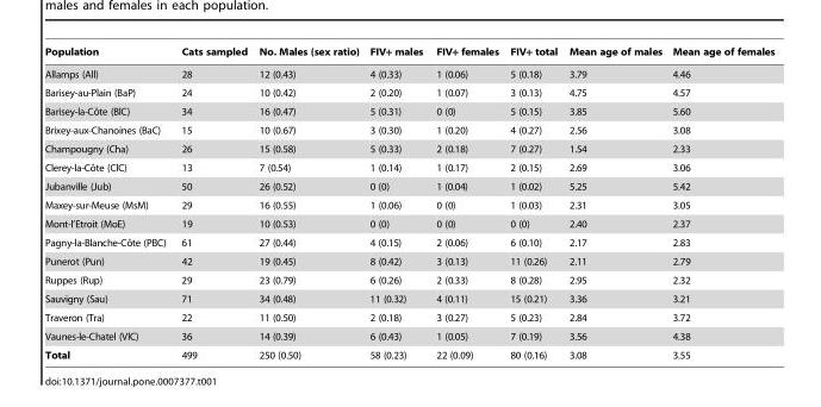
<table><thead><tr><td>Population</td><td>Cats sampled</td><td>No. Males (sex ratio)</td><td>FIV+ males</td><td>FIV+ females</td><td>FIV+ total</td><td>Mean age of males</td><td>Mean age of females</td></tr></thead><tbody><tr><td>Allamps (All)</td><td>28</td><td>12 (0.43)</td><td>4 (0.33)</td><td>1 (0.06)</td><td>5 (0.18)</td><td>3.79</td><td>4.46</td></tr><tr><td>Barisey-au-Plain (BaP)</td><td>24</td><td>10 (0.42)</td><td>2 (0.20)</td><td>1 (0.07)</td><td>3 (0.13)</td><td>4.75</td><td>4.57</td></tr><tr><td>Barisey-la-Coˆte (BlC)</td><td>34</td><td>16 (0.47)</td><td>5 (0.31)</td><td>0 (0)</td><td>5 (0.15)</td><td>3.85</td><td>5.60</td></tr><tr><td>Brixey-aux-Chanoines (BaC)</td><td>15</td><td>10 (0.67)</td><td>3 (0.30)</td><td>1 (0.20)</td><td>4 (0.27)</td><td>2.56</td><td>3.08</td></tr><tr><td>Champougny (Cha)</td><td>26</td><td>15 (0.58)</td><td>5 (0.33)</td><td>2 (0.18)</td><td>7 (0.27)</td><td>1.54</td><td>2.33</td></tr><tr><td>Clerey-la-Coˆte (ClC)</td><td>13</td><td>7 (0.54)</td><td>1 (0.14)</td><td>1 (0.17)</td><td>2 (0.15)</td><td>2.69</td><td>3.06</td></tr><tr><td>Jubanville (Jub)</td><td>50</td><td>26 (0.52)</td><td>0 (0)</td><td>1 (0.04)</td><td>1 (0.02)</td><td>5.25</td><td>5.42</td></tr><tr><td>Maxey-sur-Meuse (MsM)</td><td>29</td><td>16 (0.55)</td><td>1 (0.06)</td><td>0 (0)</td><td>1 (0.03)</td><td>2.31</td><td>3.05</td></tr><tr><td>Mont-l’Etroit (MoE)</td><td>19</td><td>10 (0.53)</td><td>0 (0)</td><td>0 (0)</td><td>0 (0)</td><td>2.40</td><td>2.37</td></tr><tr><td>Pagny-la-Blanche-Coˆte (PBC)</td><td>61</td><td>27 (0.44)</td><td>4 (0.15)</td><td>2 (0.06)</td><td>6 (0.10)</td><td>2.17</td><td>2.83</td></tr><tr><td>Punerot (Pun)</td><td>42</td><td>19 (0.45)</td><td>8 (0.42)</td><td>3 (0.13)</td><td>11 (0.26)</td><td>2.11</td><td>2.79</td></tr><tr><td>Ruppes (Rup)</td><td>29</td><td>23 (0.79)</td><td>6 (0.26)</td><td>2 (0.33)</td><td>8 (0.28)</td><td>2.95</td><td>2.32</td></tr><tr><td>Sauvigny (Sau)</td><td>71</td><td>34 (0.48)</td><td>11 (0.32)</td><td>4 (0.11)</td><td>15 (0.21)</td><td>3.36</td><td>3.21</td></tr><tr><td>Traveron (Tra)</td><td>22</td><td>11 (0.50)</td><td>2 (0.18)</td><td>3 (0.27)</td><td>5 (0.23)</td><td>2.84</td><td>3.72</td></tr><tr><td>Vaunes-le-Chatel (VlC)</td><td>36</td><td>14 (0.39)</td><td>6 (0.43)</td><td>1 (0.05)</td><td>7 (0.19)</td><td>3.56</td><td>4.38</td></tr><tr><td>Total</td><td>499</td><td>250 (0.50)</td><td>58 (0.23)</td><td>22 (0.09)</td><td>80 (0.16)</td><td>3.08</td><td>3.55</td></tr></tbody></table>